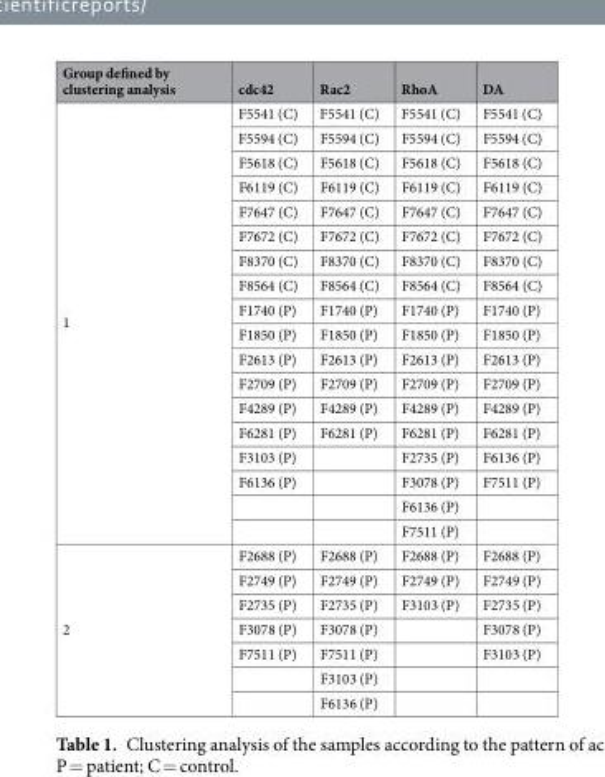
<table><thead><tr><td>Group defined by clustering analysis</td><td>cdc42</td><td>Rac2</td><td>RhoA</td><td>DA</td></tr></thead><tbody><tr><td rowspan="18">1</td><td>F5541 (C)</td><td>F5541 (C)</td><td>F5541 (C)</td><td>F5541 (C)</td></tr><tr><td>F5594 (C)</td><td>F5594 (C)</td><td>F5594 (C)</td><td>F5594 (C)</td></tr><tr><td>F5618 (C)</td><td>F5618 (C)</td><td>F5618 (C)</td><td>F5618 (C)</td></tr><tr><td>F6119 (C)</td><td>F6119 (C)</td><td>F6119 (C)</td><td>F6119 (C)</td></tr><tr><td>F7647 (C)</td><td>F7647 (C)</td><td>F7647 (C)</td><td>F7647 (C)</td></tr><tr><td>F7672 (C)</td><td>F7672 (C)</td><td>F7672 (C)</td><td>F7672 (C)</td></tr><tr><td>F8370 (C)</td><td>F8370 (C)</td><td>F8370 (C)</td><td>F8370 (C)</td></tr><tr><td>F8564 (C)</td><td>F8564 (C)</td><td>F8564 (C)</td><td>F8564 (C)</td></tr><tr><td>F1740 (P)</td><td>F1740 (P)</td><td>F1740 (P)</td><td>F1740 (P)</td></tr><tr><td>F1850 (P)</td><td>F1850 (P)</td><td>F1850 (P)</td><td>F1850 (P)</td></tr><tr><td>F2613 (P)</td><td>F2613 (P)</td><td>F2613 (P)</td><td>F2613 (P)</td></tr><tr><td>F2709 (P)</td><td>F2709 (P)</td><td>F2709 (P)</td><td>F2709 (P)</td></tr><tr><td>F4289 (P)</td><td>F4289 (P)</td><td>F4289 (P)</td><td>F4289 (P)</td></tr><tr><td>F6281 (P)</td><td>F6281 (P)</td><td>F6281 (P)</td><td>F6281 (P)</td></tr><tr><td>F3103 (P)</td><td></td><td>F2735 (P)</td><td>F6136 (P)</td></tr><tr><td>F6136 (P)</td><td></td><td>F3078 (P)</td><td>F7511 (P)</td></tr><tr><td></td><td></td><td>F6136 (P)</td><td></td></tr><tr><td></td><td></td><td>F7511 (P)</td><td></td></tr><tr><td rowspan="7">2</td><td>F2688 (P)</td><td>F2688 (P)</td><td>F2688 (P)</td><td>F2688 (P)</td></tr><tr><td>F2749 (P)</td><td>F2749 (P)</td><td>F2749 (P)</td><td>F2749 (P)</td></tr><tr><td>F2735 (P)</td><td>F2735 (P)</td><td>F3103 (P)</td><td>F2735 (P)</td></tr><tr><td>F3078 (P)</td><td>F3078 (P)</td><td></td><td>F3078 (P)</td></tr><tr><td>F7511 (P)</td><td>F7511 (P)</td><td></td><td>F3103 (P)</td></tr><tr><td></td><td>F3103 (P)</td><td></td><td></td></tr><tr><td></td><td>F6136 (P)</td><td></td><td></td></tr></tbody></table>